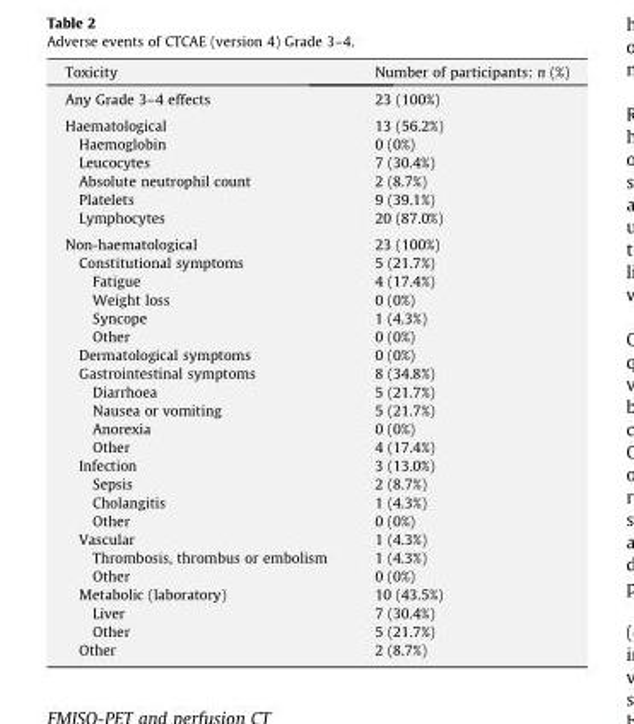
<table><thead><tr><td>Toxicity</td><td>Number of participants: n (%)</td></tr></thead><tbody><tr><td>Any Grade 3–4 effects</td><td>23 (100%)</td></tr><tr><td>Haematological</td><td>13 (56.2%)</td></tr><tr><td>Haemoglobin</td><td>0 (0%)</td></tr><tr><td>Leucocytes</td><td>7 (30.4%)</td></tr><tr><td>Absolute neutrophil count</td><td>2 (8.7%)</td></tr><tr><td>Platelets</td><td>9 (39.1%)</td></tr><tr><td>Lymphocytes</td><td>20 (87.0%)</td></tr><tr><td>Non-haematological</td><td>23 (100%)</td></tr><tr><td>Constitutional symptoms</td><td>5 (21.7%)</td></tr><tr><td>Fatigue</td><td>4 (17.4%)</td></tr><tr><td>Weight loss</td><td>0 (0%)</td></tr><tr><td>Syncope</td><td>1 (4.3%)</td></tr><tr><td>Other</td><td>0 (0%)</td></tr><tr><td>Dermatological symptoms</td><td>0 (0%)</td></tr><tr><td>Gastrointestinal symptoms</td><td>8 (34.8%)</td></tr><tr><td>Diarrhoea</td><td>5 (21.7%)</td></tr><tr><td>Nausea or vomiting</td><td>5 (21.7%)</td></tr><tr><td>Anorexia</td><td>0 (0%)</td></tr><tr><td>Other</td><td>4 (17.4%)</td></tr><tr><td>Infection</td><td>3 (13.0%)</td></tr><tr><td>Sepsis</td><td>2 (8.7%)</td></tr><tr><td>Cholangitis</td><td>1 (4.3%)</td></tr><tr><td>Other</td><td>0 (0%)</td></tr><tr><td>Vascular</td><td>1 (4.3%)</td></tr><tr><td>Thrombosis, thrombus or embolism</td><td>1 (4.3%)</td></tr><tr><td>Other</td><td>0 (0%)</td></tr><tr><td>Metabolic (laboratory)</td><td>10 (43.5%)</td></tr><tr><td>Liver</td><td>7 (30.4%)</td></tr><tr><td>Other</td><td>5 (21.7%)</td></tr><tr><td>Other</td><td>2 (8.7%)</td></tr></tbody></table>